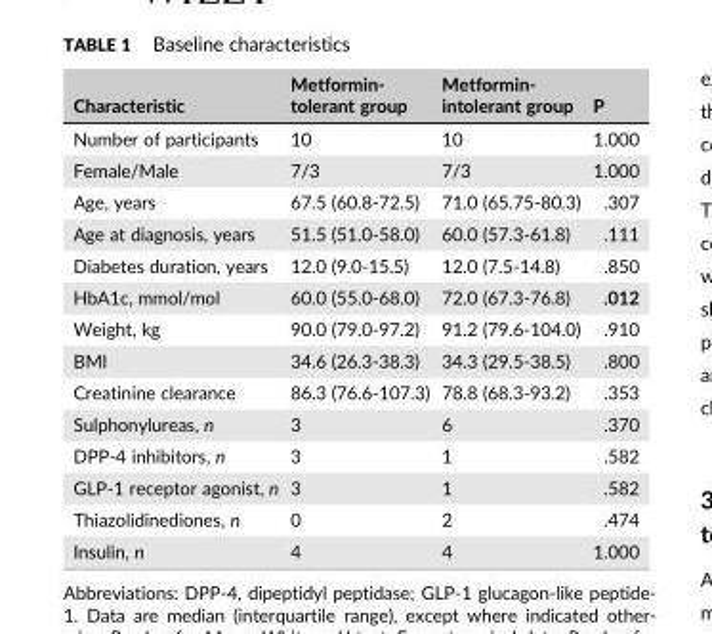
<table><thead><tr><td>Characteristic</td><td>Metformin- tolerant group</td><td>Metformin- intolerant group</td><td>P</td></tr></thead><tbody><tr><td>Number of participants</td><td>10</td><td>10</td><td>1.000</td></tr><tr><td>Female/Male</td><td>7/3</td><td>7/3</td><td>1.000</td></tr><tr><td>Age, years</td><td>67.5 (60.8-72.5)</td><td>71.0 (65.75-80.3)</td><td>.307</td></tr><tr><td>Age at diagnosis, years</td><td>51.5 (51.0-58.0)</td><td>60.0 (57.3-61.8)</td><td>.111</td></tr><tr><td>Diabetes duration, years</td><td>12.0 (9.0-15.5)</td><td>12.0 (7.5-14.8)</td><td>.850</td></tr><tr><td>HbA1c, mmol/mol</td><td>60.0 (55.0-68.0)</td><td>72.0 (67.3-76.8)</td><td>.012</td></tr><tr><td>Weight, kg</td><td>90.0 (79.0-97.2)</td><td>91.2 (79.6-104.0)</td><td>.910</td></tr><tr><td>BMI</td><td>34.6 (26.3-38.3)</td><td>34.3 (29.5-38.5)</td><td>.800</td></tr><tr><td>Creatinine clearance</td><td>86.3 (76.6-107.3)</td><td>78.8 (68.3-93.2)</td><td>.353</td></tr><tr><td>Sulphonylureas, n</td><td>3</td><td>6</td><td>.370</td></tr><tr><td>DPP-4 inhibitors, n</td><td>3</td><td>1</td><td>.582</td></tr><tr><td>GLP-1 receptor agonist, n</td><td>3</td><td>1</td><td>.582</td></tr><tr><td>Thiazolidinediones, n</td><td>0</td><td>2</td><td>.474</td></tr><tr><td>Insulin, n</td><td>4</td><td>4</td><td>1.000</td></tr></tbody></table>